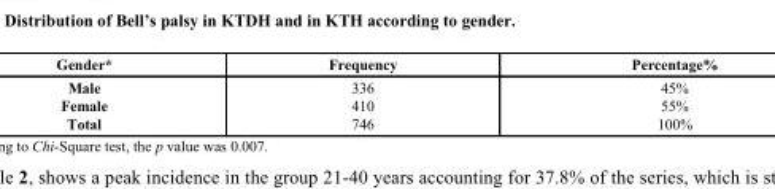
<table><thead><tr><td>Gender*</td><td>Frequency</td><td>Percentage%</td></tr></thead><tbody><tr><td>Male Female Total</td><td>336 410 746</td><td>45% 55% 100%</td></tr></tbody></table>